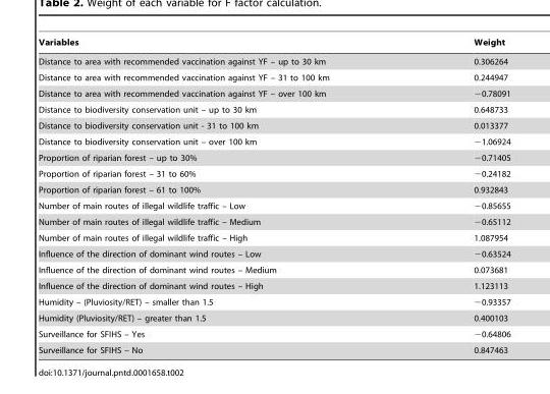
<table><thead><tr><td>Variables</td><td>Weight</td></tr></thead><tbody><tr><td>Distance to area with recommended vaccination against YF – up to 30 km</td><td>0.306264</td></tr><tr><td>Distance to area with recommended vaccination against YF – 31 to 100 km</td><td>0.244947</td></tr><tr><td>Distance to area with recommended vaccination against YF – over 100 km</td><td>−0.78091</td></tr><tr><td>Distance to biodiversity conservation unit – up to 30 km</td><td>0.648733</td></tr><tr><td>Distance to biodiversity conservation unit - 31 to 100 km</td><td>0.013377</td></tr><tr><td>Distance to biodiversity conservation unit – over 100 km</td><td>−1.06924</td></tr><tr><td>Proportion of riparian forest – up to 30%</td><td>−0.71405</td></tr><tr><td>Proportion of riparian forest – 31 to 60%</td><td>−0.24182</td></tr><tr><td>Proportion of riparian forest – 61 to 100%</td><td>0.932843</td></tr><tr><td>Number of main routes of illegal wildlife traffic – Low</td><td>−0.85655</td></tr><tr><td>Number of main routes of illegal wildlife traffic – Medium</td><td>−0.65112</td></tr><tr><td>Number of main routes of illegal wildlife traffic – High</td><td>1.087954</td></tr><tr><td>Influence of the direction of dominant wind routes – Low</td><td>−0.63524</td></tr><tr><td>Influence of the direction of dominant wind routes – Medium</td><td>0.073681</td></tr><tr><td>Influence of the direction of dominant wind routes – High</td><td>1.123113</td></tr><tr><td>Humidity – (Pluviosity/RET) – smaller than 1.5</td><td>−0.93357</td></tr><tr><td>Humidity (Pluviosity/RET) – greater than 1.5</td><td>0.400103</td></tr><tr><td>Surveillance for SFIHS – Yes</td><td>−0.64806</td></tr><tr><td>Surveillance for SFIHS – No</td><td>0.847463</td></tr></tbody></table>